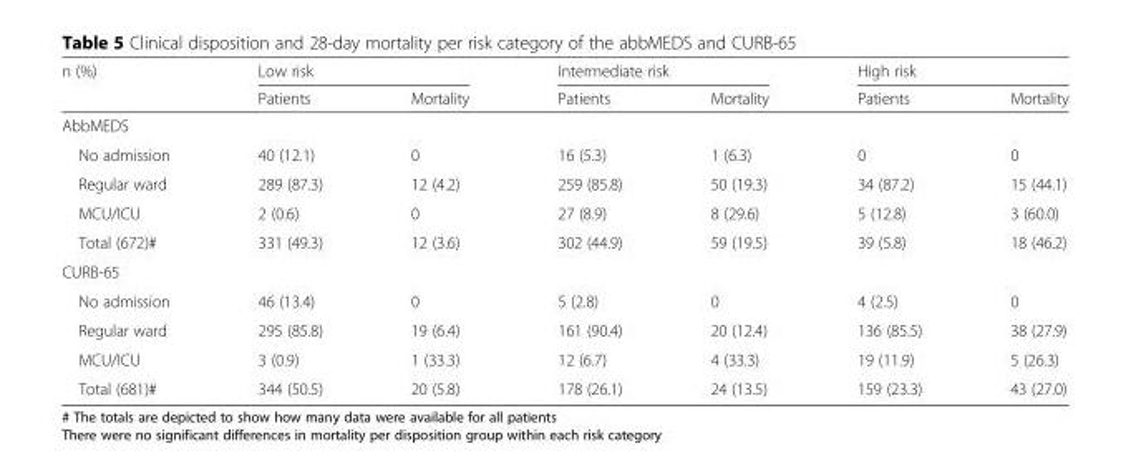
<table><thead><tr><td rowspan="2">n (%)</td><td colspan="2">Low risk</td><td colspan="2">Intermediate risk</td><td colspan="2">High risk</td></tr><tr><td>Patients</td><td>Mortality</td><td>Patients</td><td>Mortality</td><td>Patients</td><td>Mortality</td></tr></thead><tbody><tr><td colspan="7">AbbMEDS</td></tr><tr><td>No admission</td><td>40 (12.1)</td><td>0</td><td>16 (5.3)</td><td>1 (6.3)</td><td>0</td><td>0</td></tr><tr><td>Regular ward</td><td>289 (87.3)</td><td>12 (4.2)</td><td>259 (85.8)</td><td>50 (19.3)</td><td>34 (87.2)</td><td>15 (44.1)</td></tr><tr><td>MCU/ICU</td><td>2 (0.6)</td><td>0</td><td>27 (8.9)</td><td>8 (29.6)</td><td>5 (12.8)</td><td>3 (60.0)</td></tr><tr><td>Total (672)#</td><td>331 (49.3)</td><td>12 (3.6)</td><td>302 (44.9)</td><td>59 (19.5)</td><td>39 (5.8)</td><td>18 (46.2)</td></tr><tr><td colspan="7">CURB-65</td></tr><tr><td>No admission</td><td>46 (13.4)</td><td>0</td><td>5 (2.8)</td><td>0</td><td>4 (2.5)</td><td>0</td></tr><tr><td>Regular ward</td><td>295 (85.8)</td><td>19 (6.4)</td><td>161 (90.4)</td><td>20 (12.4)</td><td>136 (85.5)</td><td>38 (27.9)</td></tr><tr><td>MCU/ICU</td><td>3 (0.9)</td><td>1 (33.3)</td><td>12 (6.7)</td><td>4 (33.3)</td><td>19 (11.9)</td><td>5 (26.3)</td></tr><tr><td>Total (681)#</td><td>344 (50.5)</td><td>20 (5.8)</td><td>178 (26.1)</td><td>24 (13.5)</td><td>159 (23.3)</td><td>43 (27.0)</td></tr></tbody></table>